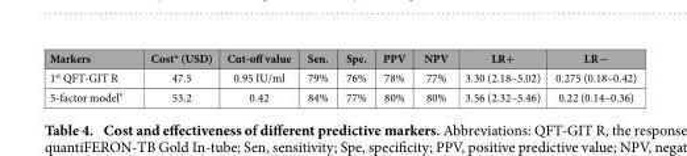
<table><thead><tr><td>Markers</td><td>Cost* (USD)</td><td>Cut-off value</td><td>Sen.</td><td>Spe.</td><td>PPV</td><td>NPV</td><td>LR+</td><td>LR−</td></tr></thead><tbody><tr><td>1<sup>st</sup> QFT-GIT R</td><td>47.5</td><td>0.95 IU/ml</td><td>79%</td><td>76%</td><td>78%</td><td>77%</td><td>3.30 (2.18–5.02)</td><td>0.275 (0.18–0.42)</td></tr><tr><td>5-factor model<sup>ǂ</sup></td><td>53.2</td><td>0.42</td><td>84%</td><td>77%</td><td>80%</td><td>80%</td><td>3.56 (2.32–5.46)</td><td>0.22 (0.14–0.36)</td></tr></tbody></table>